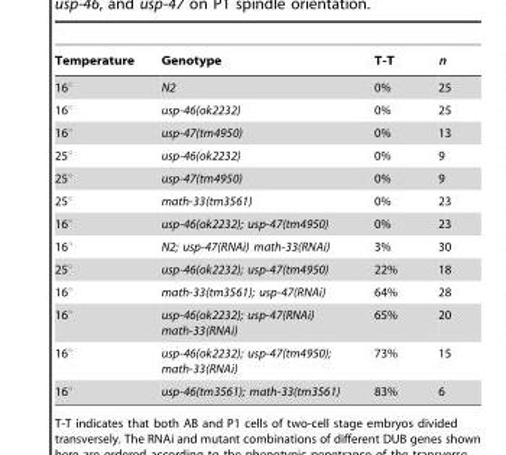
<table><thead><tr><td>Temperature</td><td>Genotype</td><td>T-T</td><td>n</td></tr></thead><tbody><tr><td>16°</td><td>N2</td><td>0%</td><td>25</td></tr><tr><td>16°</td><td>usp-46(ok2232)</td><td>0%</td><td>25</td></tr><tr><td>16°</td><td>usp-47(tm4950)</td><td>0%</td><td>13</td></tr><tr><td>25°</td><td>usp-46(ok2232)</td><td>0%</td><td>9</td></tr><tr><td>25°</td><td>usp-47(tm4950)</td><td>0%</td><td>9</td></tr><tr><td>25°</td><td>math-33(tm3561)</td><td>0%</td><td>23</td></tr><tr><td>16°</td><td>usp-46(ok2232); usp-47(tm4950)</td><td>0%</td><td>23</td></tr><tr><td>16°</td><td>N2; usp-47(RNAi) math-33(RNAi)</td><td>3%</td><td>30</td></tr><tr><td>25°</td><td>usp-46(ok2232); usp-47(tm4950)</td><td>22%</td><td>18</td></tr><tr><td>16°</td><td>math-33(tm3561); usp-47(RNAi)</td><td>64%</td><td>28</td></tr><tr><td>16°</td><td>usp-46(ok2232); usp-47(RNAi) math-33(RNAi)</td><td>65%</td><td>20</td></tr><tr><td>16°</td><td>usp-46(ok2232); usp-47(tm4950); math-33(RNAi)</td><td>73%</td><td>15</td></tr><tr><td>16°</td><td>usp-46(tm3561); math-33(tm3561)</td><td>83%</td><td>6</td></tr></tbody></table>